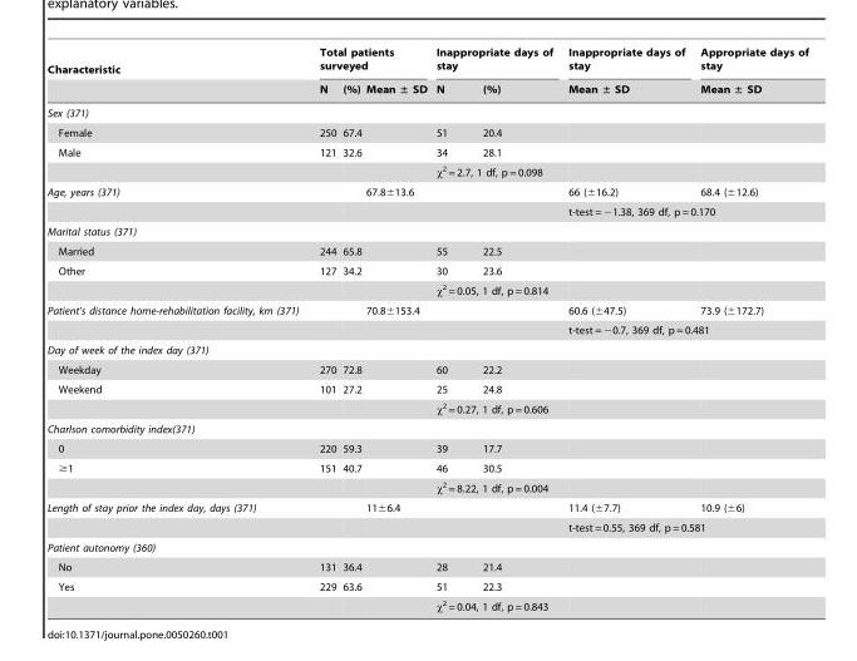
<table><thead><tr><td rowspan="2">Characteristic</td><td colspan="3">Total patients surveyed</td><td colspan="2">Inappropriate days of stay</td><td rowspan="2">Inappropriate days of stay Mean ± SD</td><td rowspan="2">Appropriate days of stay Mean ± SD</td></tr><tr><td>N</td><td>(%)</td><td>Mean ± SD</td><td>N</td><td>(%)</td></tr></thead><tbody><tr><td colspan="8">Sex (371)</td></tr><tr><td>Female</td><td>250</td><td>67.4</td><td></td><td>51</td><td>20.4</td><td></td><td></td></tr><tr><td rowspan="2">Male</td><td>121</td><td>32.6</td><td></td><td>34</td><td>28.1</td><td></td><td></td></tr><tr><td></td><td></td><td></td><td colspan="2">χ<sup>2</sup> = 2.7, 1 df, p = 0.098</td><td></td><td></td></tr><tr><td rowspan="2">Age, years (371)</td><td></td><td></td><td>67.8±13.6</td><td></td><td></td><td>66 (±16.2)</td><td>68.4 (±12.6)</td></tr><tr><td></td><td></td><td></td><td></td><td></td><td colspan="2">t-test = −1.38, 369 df, p = 0.170</td></tr><tr><td colspan="8">Marital status (371)</td></tr><tr><td>Married</td><td>244</td><td>65.8</td><td></td><td>55</td><td>22.5</td><td></td><td></td></tr><tr><td rowspan="2">Other</td><td>127</td><td>34.2</td><td></td><td>30</td><td>23.6</td><td></td><td></td></tr><tr><td></td><td></td><td></td><td colspan="2">χ<sup>2</sup> = 0.05, 1 df, p = 0.814</td><td></td><td></td></tr><tr><td rowspan="2">Patient’s distance home-rehabilitation facility, km (371)</td><td></td><td></td><td>70.8±153.4</td><td></td><td></td><td>60.6 (±47.5)</td><td>73.9 (±172.7)</td></tr><tr><td></td><td></td><td></td><td></td><td></td><td colspan="2">t-test = −0.7, 369 df, p = 0.481</td></tr><tr><td colspan="8">Day of week of the index day (371)</td></tr><tr><td>Weekday</td><td>270</td><td>72.8</td><td></td><td>60</td><td>22.2</td><td></td><td></td></tr><tr><td rowspan="2">Weekend</td><td>101</td><td>27.2</td><td></td><td>25</td><td>24.8</td><td></td><td></td></tr><tr><td></td><td></td><td></td><td colspan="2">χ<sup>2</sup> = 0.27, 1 df, p = 0.606</td><td></td><td></td></tr><tr><td colspan="8">Charlson comorbidity index(371)</td></tr><tr><td>0</td><td>220</td><td>59.3</td><td></td><td>39</td><td>17.7</td><td></td><td></td></tr><tr><td rowspan="2">≥1</td><td>151</td><td>40.7</td><td></td><td>46</td><td>30.5</td><td></td><td></td></tr><tr><td></td><td></td><td></td><td colspan="2">χ<sup>2</sup> = 8.22, 1 df, p = 0.004</td><td></td><td></td></tr><tr><td rowspan="2">Length of stay prior the index day, days (371)</td><td></td><td></td><td>11±6.4</td><td></td><td></td><td>11.4 (±7.7)</td><td>10.9 (±6)</td></tr><tr><td></td><td></td><td></td><td></td><td></td><td colspan="2">t-test = 0.55, 369 df, p = 0.581</td></tr><tr><td colspan="8">Patient autonomy (360)</td></tr><tr><td>No</td><td>131</td><td>36.4</td><td></td><td>28</td><td>21.4</td><td></td><td></td></tr><tr><td rowspan="2">Yes</td><td>229</td><td>63.6</td><td></td><td>51</td><td>22.3</td><td></td><td></td></tr><tr><td></td><td></td><td></td><td colspan="2">χ<sup>2</sup> = 0.04, 1 df, p = 0.843</td><td></td><td></td></tr></tbody></table>